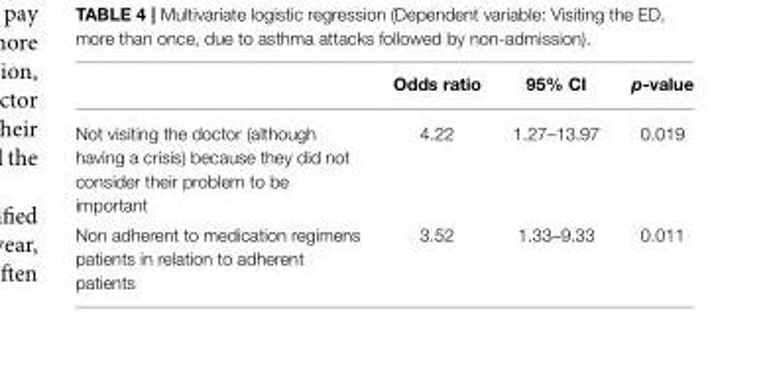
<table><thead><tr><td></td><td>Odds ratio</td><td>95% CI</td><td>p-value</td></tr></thead><tbody><tr><td>Not visiting the doctor (although having a crisis) because they did not consider their problem to be important</td><td>4.22</td><td>1.27–13.97</td><td>0.019</td></tr><tr><td>Non adherent to medication regimens patients in relation to adherent patients</td><td>3.52</td><td>1.33–9.33</td><td>0.011</td></tr></tbody></table>